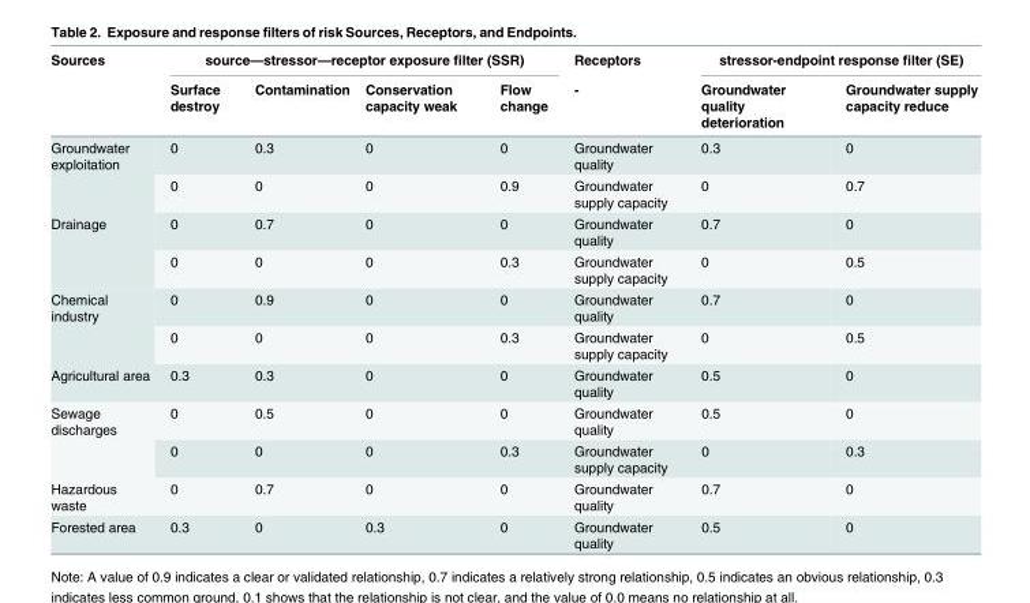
<table><thead><tr><td rowspan="2">Sources</td><td colspan="4">source—stressor—receptor exposure filter (SSR)</td><td rowspan="2">Receptors -</td><td colspan="2">stressor-endpoint response filter (SE)</td></tr><tr><td>Surface destroy</td><td>Contamination</td><td>Conservation capacity weak</td><td>Flow change</td><td>Groundwater quality deterioration</td><td>Groundwater supply capacity reduce</td></tr></thead><tbody><tr><td rowspan="2">Groundwater exploitation</td><td>0</td><td>0.3</td><td>0</td><td>0</td><td>Groundwater quality</td><td>0.3</td><td>0</td></tr><tr><td>0</td><td>0</td><td>0</td><td>0.9</td><td>Groundwater supply capacity</td><td>0</td><td>0.7</td></tr><tr><td rowspan="2">Drainage</td><td>0</td><td>0.7</td><td>0</td><td>0</td><td>Groundwater quality</td><td>0.7</td><td>0</td></tr><tr><td>0</td><td>0</td><td>0</td><td>0.3</td><td>Groundwater supply capacity</td><td>0</td><td>0.5</td></tr><tr><td rowspan="2">Chemical industry</td><td>0</td><td>0.9</td><td>0</td><td>0</td><td>Groundwater quality</td><td>0.7</td><td>0</td></tr><tr><td>0</td><td>0</td><td>0</td><td>0.3</td><td>Groundwater supply capacity</td><td>0</td><td>0.5</td></tr><tr><td>Agricultural area</td><td>0.3</td><td>0.3</td><td>0</td><td>0</td><td>Groundwater quality</td><td>0.5</td><td>0</td></tr><tr><td rowspan="2">Sewage discharges</td><td>0</td><td>0.5</td><td>0</td><td>0</td><td>Groundwater quality</td><td>0.5</td><td>0</td></tr><tr><td>0</td><td>0</td><td>0</td><td>0.3</td><td>Groundwater supply capacity</td><td>0</td><td>0.3</td></tr><tr><td>Hazardous waste</td><td>0</td><td>0.7</td><td>0</td><td>0</td><td>Groundwater quality</td><td>0.7</td><td>0</td></tr><tr><td>Forested area</td><td>0.3</td><td>0</td><td>0.3</td><td>0</td><td>Groundwater quality</td><td>0.5</td><td>0</td></tr></tbody></table>